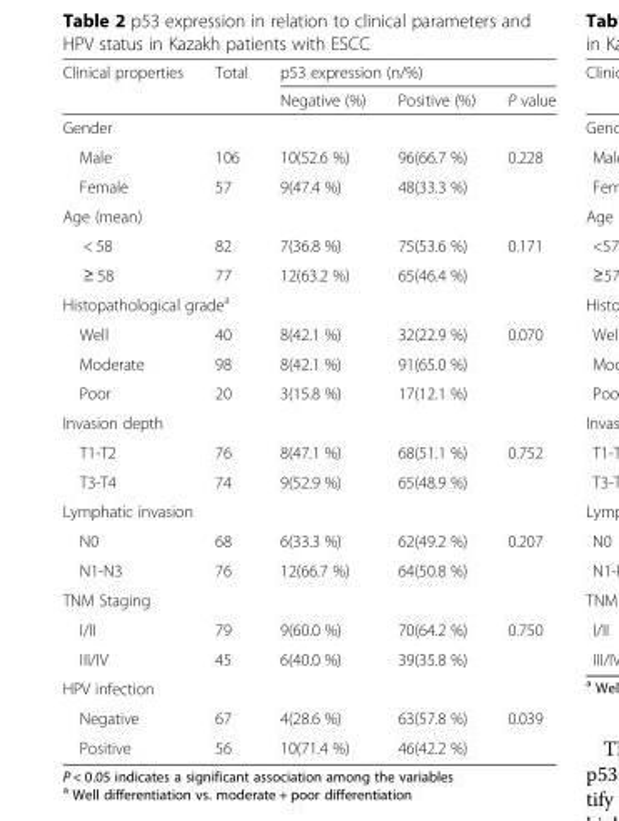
<table><thead><tr><td rowspan="2">Clinical properties</td><td rowspan="2">Total</td><td colspan="3">p53 expression (n/%)</td></tr><tr><td>Negative (%)</td><td>Positive (%)</td><td>P value</td></tr></thead><tbody><tr><td colspan="5">Gender</td></tr><tr><td>Male</td><td>106</td><td>10(52.6 %)</td><td>96(66.7 %)</td><td rowspan="2">0.228</td></tr><tr><td>Female</td><td>57</td><td>9(47.4 %)</td><td>48(33.3 %)</td></tr><tr><td colspan="5">Age (mean)</td></tr><tr><td>&lt; 58</td><td>82</td><td>7(36.8 %)</td><td>75(53.6 %)</td><td rowspan="2">0.171</td></tr><tr><td>≥ 58</td><td>77</td><td>12(63.2 %)</td><td>65(46.4 %)</td></tr><tr><td colspan="5">Histopathological grade<sup>a</sup></td></tr><tr><td>Well</td><td>40</td><td>8(42.1 %)</td><td>32(22.9 %)</td><td rowspan="3">0.070</td></tr><tr><td>Moderate</td><td>98</td><td>8(42.1 %)</td><td>91(65.0 %)</td></tr><tr><td>Poor</td><td>20</td><td>3(15.8 %)</td><td>17(12.1 %)</td></tr><tr><td colspan="5">Invasion depth</td></tr><tr><td>T1-T2</td><td>76</td><td>8(47.1 %)</td><td>68(51.1 %)</td><td rowspan="2">0.752</td></tr><tr><td>T3-T4</td><td>74</td><td>9(52.9 %)</td><td>65(48.9 %)</td></tr><tr><td colspan="5">Lymphatic invasion</td></tr><tr><td>N0</td><td>68</td><td>6(33.3 %)</td><td>62(49.2 %)</td><td rowspan="2">0.207</td></tr><tr><td>N1-N3</td><td>76</td><td>12(66.7 %)</td><td>64(50.8 %)</td></tr><tr><td colspan="5">TNM Staging</td></tr><tr><td>I/II</td><td>79</td><td>9(60.0 %)</td><td>70(64.2 %)</td><td rowspan="2">0.750</td></tr><tr><td>III/IV</td><td>45</td><td>6(40.0 %)</td><td>39(35.8 %)</td></tr><tr><td colspan="5">HPV infection</td></tr><tr><td>Negative</td><td>67</td><td>4(28.6 %)</td><td>63(57.8 %)</td><td rowspan="2">0.039</td></tr><tr><td>Positive</td><td>56</td><td>10(71.4 %)</td><td>46(42.2 %)</td></tr></tbody></table>